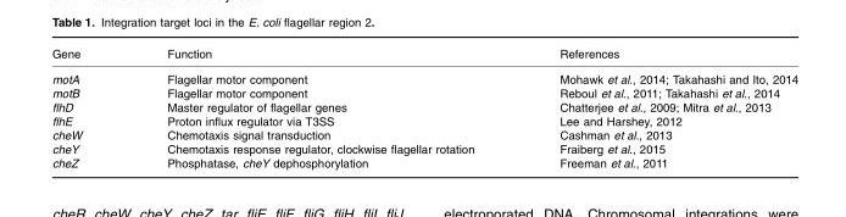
<table><thead><tr><td>Gene</td><td>Function</td><td>References</td></tr></thead><tbody><tr><td>motA</td><td>Flagellar motor component</td><td>Mohawk et al., 2014; Takahashi and Ito, 2014</td></tr><tr><td>motB</td><td>Flagellar motor component</td><td>Reboul et al., 2011; Takahashi et al., 2014</td></tr><tr><td>flhD</td><td>Master regulator of flagellar genes</td><td>Chatterjee et al., 2009; Mitra et al., 2013</td></tr><tr><td>flhE</td><td>Proton influx regulator via T3SS</td><td>Lee and Harshey, 2012</td></tr><tr><td>cheW</td><td>Chemotaxis signal transduction</td><td>Cashman et al., 2013</td></tr><tr><td>cheY</td><td>Chemotaxis response regulator, clockwise flagellar rotation</td><td>Fraiberg et al., 2015</td></tr><tr><td>cheZ</td><td>Phosphatase, cheY dephosphorylation</td><td>Freeman et al., 2011</td></tr></tbody></table>